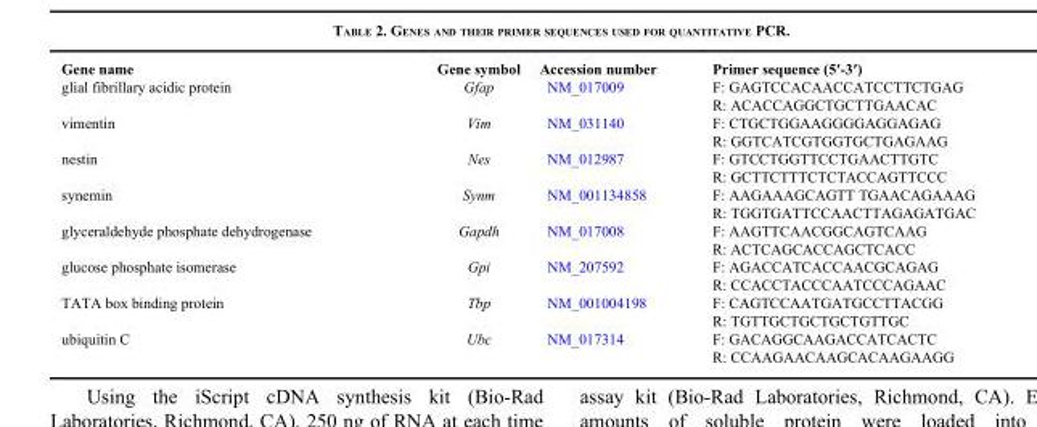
<table><thead><tr><td>Gene name</td><td>Gene symbol</td><td>Accession number</td><td>Primer sequence (5′-3′)</td></tr></thead><tbody><tr><td rowspan="2">glial fibrillary acidic protein</td><td>Gfap</td><td>NM_017009</td><td>F: GAGTCCACAACCATCCTTCTGAG</td></tr><tr><td></td><td></td><td>R: ACACCAGGCTGCTTGAACAC</td></tr><tr><td rowspan="2">vimentin</td><td>Vim</td><td>NM_031140</td><td>F: CTGCTGGAAGGGGAGGAGAG</td></tr><tr><td></td><td></td><td>R: GGTCATCGTGGTGCTGAGAAG</td></tr><tr><td rowspan="2">nestin</td><td>Nes</td><td>NM_012987</td><td>F: GTCCTGGTTCCTGAACTTGTC</td></tr><tr><td></td><td></td><td>R: GCTTCTTTCTCTACCAGTTCCC</td></tr><tr><td rowspan="2">synemin</td><td>Synm</td><td>NM_001134858</td><td>F: AAGAAAGCAGTT TGAACAGAAAG</td></tr><tr><td></td><td></td><td>R: TGGTGATTCCAACTTAGAGATGAC</td></tr><tr><td rowspan="2">glyceraldehyde phosphate dehydrogenase</td><td>Gapdh</td><td>NM_017008</td><td>F: AAGTTCAACGGCAGTCAAG</td></tr><tr><td></td><td></td><td>R: ACTCAGCACCAGCTCACC</td></tr><tr><td rowspan="2">glucose phosphate isomerase</td><td>Gpi</td><td>NM_207592</td><td>F: AGACCATCACCAACGCAGAG</td></tr><tr><td></td><td></td><td>R: CCACCTACCCAATCCCAGAAC</td></tr><tr><td rowspan="2">TATA box binding protein</td><td>Tbp</td><td>NM_001004198</td><td>F: CAGTCCAATGATGCCTTACGG</td></tr><tr><td></td><td></td><td>R: TGTTGCTGCTGCTGTTGC</td></tr><tr><td rowspan="2">ubiquitin C</td><td>Ubc</td><td>NM_017314</td><td>F: GACAGGCAAGACCATCACTC</td></tr><tr><td></td><td></td><td>R: CCAAGAACAAGCACAAGAAGG</td></tr></tbody></table>